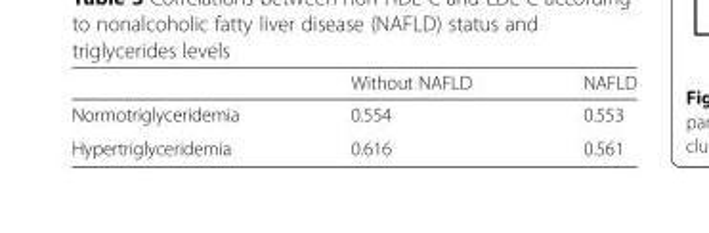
<table><thead><tr><td></td><td>Without NAFLD</td><td>NAFLD</td></tr></thead><tbody><tr><td>Normotriglyceridemia</td><td>0.554</td><td>0.553</td></tr><tr><td>Hypertriglyceridemia</td><td>0.616</td><td>0.561</td></tr></tbody></table>